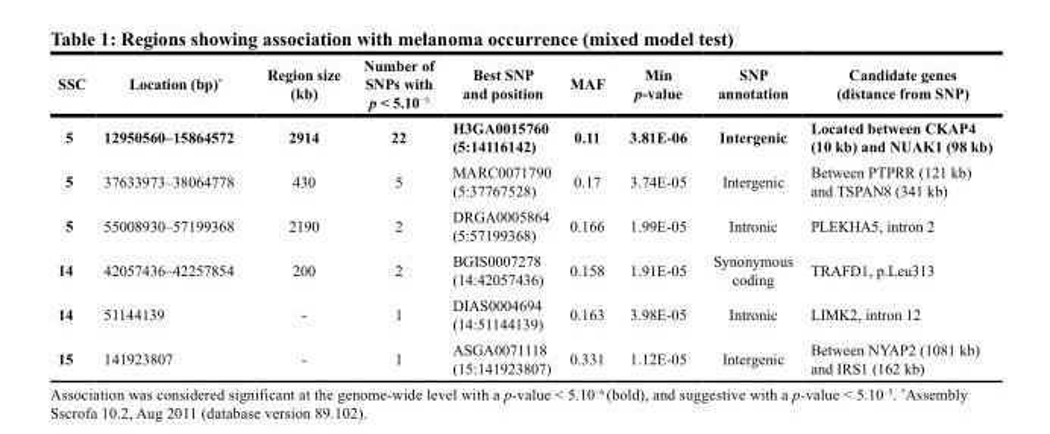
<table><thead><tr><td>SSC</td><td>Location (bp)*</td><td>Region size (kb)</td><td>Number of SNPs with p &lt; 5.10<sup>−5</sup></td><td>Best SNP and position</td><td>MAF</td><td>Min p-value</td><td>SNP annotation</td><td>Candidate genes (distance from SNP)</td></tr></thead><tbody><tr><td>5</td><td>12950560–15864572</td><td>2914</td><td>22</td><td>H3GA0015760 (5:14116142)</td><td>0.11</td><td>3.81E-06</td><td>Intergenic</td><td>Located between CKAP4 (10 kb) and NUAK1 (98 kb)</td></tr><tr><td>5</td><td>37633973–38064778</td><td>430</td><td>5</td><td>MARC0071790 (5:37767528)</td><td>0.17</td><td>3.74E-05</td><td>Intergenic</td><td>Between PTPRR (121 kb) and TSPAN8 (341 kb)</td></tr><tr><td>5</td><td>55008930–57199368</td><td>2190</td><td>2</td><td>DRGA0005864 (5:57199368)</td><td>0.166</td><td>1.99E-05</td><td>Intronic</td><td>PLEKHA5, intron 2</td></tr><tr><td>14</td><td>42057436–42257854</td><td>200</td><td>2</td><td>BGIS0007278 (14:42057436)</td><td>0.158</td><td>1.91E-05</td><td>Synonymous coding</td><td>TRAFD1, p.Leu313</td></tr><tr><td>14</td><td>51144139</td><td>-</td><td>1</td><td>DIAS0004694 (14:51144139)</td><td>0.163</td><td>3.98E-05</td><td>Intronic</td><td>LIMK2, intron 12</td></tr><tr><td>15</td><td>141923807</td><td>-</td><td>1</td><td>ASGA0071118 (15:141923807)</td><td>0.331</td><td>1.12E-05</td><td>Intergenic</td><td>Between NYAP2 (1081 kb) and IRS1 (162 kb)</td></tr></tbody></table>